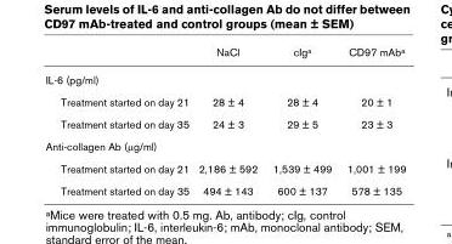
<table><thead><tr><td></td><td>NaCl</td><td>cIga</td><td>CD97 mAba</td></tr></thead><tbody><tr><td colspan="4">IL-6 (pg/ml)</td></tr><tr><td>Treatment started on day 21</td><td>28 ± 4</td><td>28 ± 4</td><td>20 ± 1</td></tr><tr><td>Treatment started on day 35</td><td>24 ± 3</td><td>29 ± 5</td><td>23 ± 3</td></tr><tr><td colspan="4">Anti-collagen Ab (µg/ml)</td></tr><tr><td>Treatment started on day 21</td><td>2,186 ± 592</td><td>1,539 ± 499</td><td>1,001 ± 199</td></tr><tr><td>Treatment started on day 35</td><td>494 ± 143</td><td>600 ± 137</td><td>578 ± 135</td></tr></tbody></table>